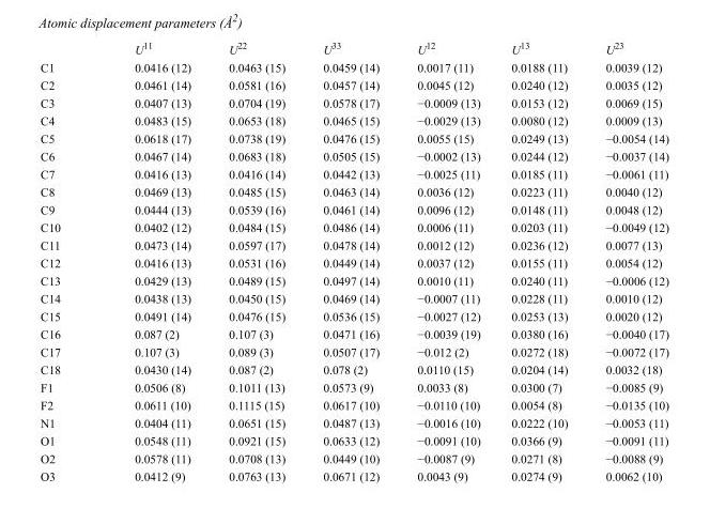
<table><thead><tr><td></td><td>U<sup>11</sup></td><td>U<sup>22</sup></td><td>U<sup>33</sup></td><td>U<sup>12</sup></td><td>U<sup>13</sup></td><td>U<sup>23</sup></td></tr></thead><tbody><tr><td>C1</td><td>0.0416 (12)</td><td>0.0463 (15)</td><td>0.0459 (14)</td><td>0.0017 (11)</td><td>0.0188 (11)</td><td>0.0039 (12)</td></tr><tr><td>C2</td><td>0.0461 (14)</td><td>0.0581 (16)</td><td>0.0457 (14)</td><td>0.0045 (12)</td><td>0.0240 (12)</td><td>0.0035 (12)</td></tr><tr><td>C3</td><td>0.0407 (13)</td><td>0.0704 (19)</td><td>0.0578 (17)</td><td>−0.0009 (13)</td><td>0.0153 (12)</td><td>0.0069 (15)</td></tr><tr><td>C4</td><td>0.0483 (15)</td><td>0.0653 (18)</td><td>0.0465 (15)</td><td>−0.0029 (13)</td><td>0.0080 (12)</td><td>0.0009 (13)</td></tr><tr><td>C5</td><td>0.0618 (17)</td><td>0.0738 (19)</td><td>0.0476 (15)</td><td>0.0055 (15)</td><td>0.0249 (13)</td><td>−0.0054 (14)</td></tr><tr><td>C6</td><td>0.0467 (14)</td><td>0.0683 (18)</td><td>0.0505 (15)</td><td>−0.0002 (13)</td><td>0.0244 (12)</td><td>−0.0037 (14)</td></tr><tr><td>C7</td><td>0.0416 (13)</td><td>0.0416 (14)</td><td>0.0442 (13)</td><td>−0.0025 (11)</td><td>0.0185 (11)</td><td>−0.0061 (11)</td></tr><tr><td>C8</td><td>0.0469 (13)</td><td>0.0485 (15)</td><td>0.0463 (14)</td><td>0.0036 (12)</td><td>0.0223 (11)</td><td>0.0040 (12)</td></tr><tr><td>C9</td><td>0.0444 (13)</td><td>0.0539 (16)</td><td>0.0461 (14)</td><td>0.0096 (12)</td><td>0.0148 (11)</td><td>0.0048 (12)</td></tr><tr><td>C10</td><td>0.0402 (12)</td><td>0.0484 (15)</td><td>0.0486 (14)</td><td>0.0006 (11)</td><td>0.0203 (11)</td><td>−0.0049 (12)</td></tr><tr><td>C11</td><td>0.0473 (14)</td><td>0.0597 (17)</td><td>0.0478 (14)</td><td>0.0012 (12)</td><td>0.0236 (12)</td><td>0.0077 (13)</td></tr><tr><td>C12</td><td>0.0416 (13)</td><td>0.0531 (16)</td><td>0.0449 (14)</td><td>0.0037 (12)</td><td>0.0155 (11)</td><td>0.0054 (12)</td></tr><tr><td>C13</td><td>0.0429 (13)</td><td>0.0489 (15)</td><td>0.0497 (14)</td><td>0.0010 (11)</td><td>0.0240 (11)</td><td>−0.0006 (12)</td></tr><tr><td>C14</td><td>0.0438 (13)</td><td>0.0450 (15)</td><td>0.0469 (14)</td><td>−0.0007 (11)</td><td>0.0228 (11)</td><td>0.0010 (12)</td></tr><tr><td>C15</td><td>0.0491 (14)</td><td>0.0476 (15)</td><td>0.0536 (15)</td><td>−0.0027 (12)</td><td>0.0253 (13)</td><td>0.0020 (12)</td></tr><tr><td>C16</td><td>0.087 (2)</td><td>0.107 (3)</td><td>0.0471 (16)</td><td>−0.0039 (19)</td><td>0.0380 (16)</td><td>−0.0040 (17)</td></tr><tr><td>C17</td><td>0.107 (3)</td><td>0.089 (3)</td><td>0.0507 (17)</td><td>−0.012 (2)</td><td>0.0272 (18)</td><td>−0.0072 (17)</td></tr><tr><td>C18</td><td>0.0430 (14)</td><td>0.087 (2)</td><td>0.078 (2)</td><td>0.0110 (15)</td><td>0.0204 (14)</td><td>0.0032 (18)</td></tr><tr><td>F1</td><td>0.0506 (8)</td><td>0.1011 (13)</td><td>0.0573 (9)</td><td>0.0033 (8)</td><td>0.0300 (7)</td><td>−0.0085 (9)</td></tr><tr><td>F2</td><td>0.0611 (10)</td><td>0.1115 (15)</td><td>0.0617 (10)</td><td>−0.0110 (10)</td><td>0.0054 (8)</td><td>−0.0135 (10)</td></tr><tr><td>N1</td><td>0.0404 (11)</td><td>0.0651 (15)</td><td>0.0487 (13)</td><td>−0.0016 (10)</td><td>0.0222 (10)</td><td>−0.0053 (11)</td></tr><tr><td>O1</td><td>0.0548 (11)</td><td>0.0921 (15)</td><td>0.0633 (12)</td><td>−0.0091 (10)</td><td>0.0366 (9)</td><td>−0.0091 (11)</td></tr><tr><td>O2</td><td>0.0578 (11)</td><td>0.0708 (13)</td><td>0.0449 (10)</td><td>−0.0087 (9)</td><td>0.0271 (8)</td><td>−0.0088 (9)</td></tr><tr><td>O3</td><td>0.0412 (9)</td><td>0.0763 (13)</td><td>0.0671 (12)</td><td>0.0043 (9)</td><td>0.0274 (9)</td><td>0.0062 (10)</td></tr></tbody></table>